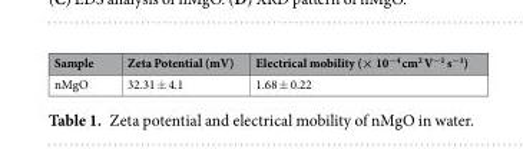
<table><thead><tr><td>Sample</td><td>Zeta Potential (mV)</td><td>Electrical mobility (× 10<sup>−4</sup> cm<sup>2</sup> V<sup>−1</sup> s<sup>−1</sup>)</td></tr></thead><tbody><tr><td>nMgO</td><td>32.31 ± 4.1</td><td>1.68 ± 0.22</td></tr></tbody></table>